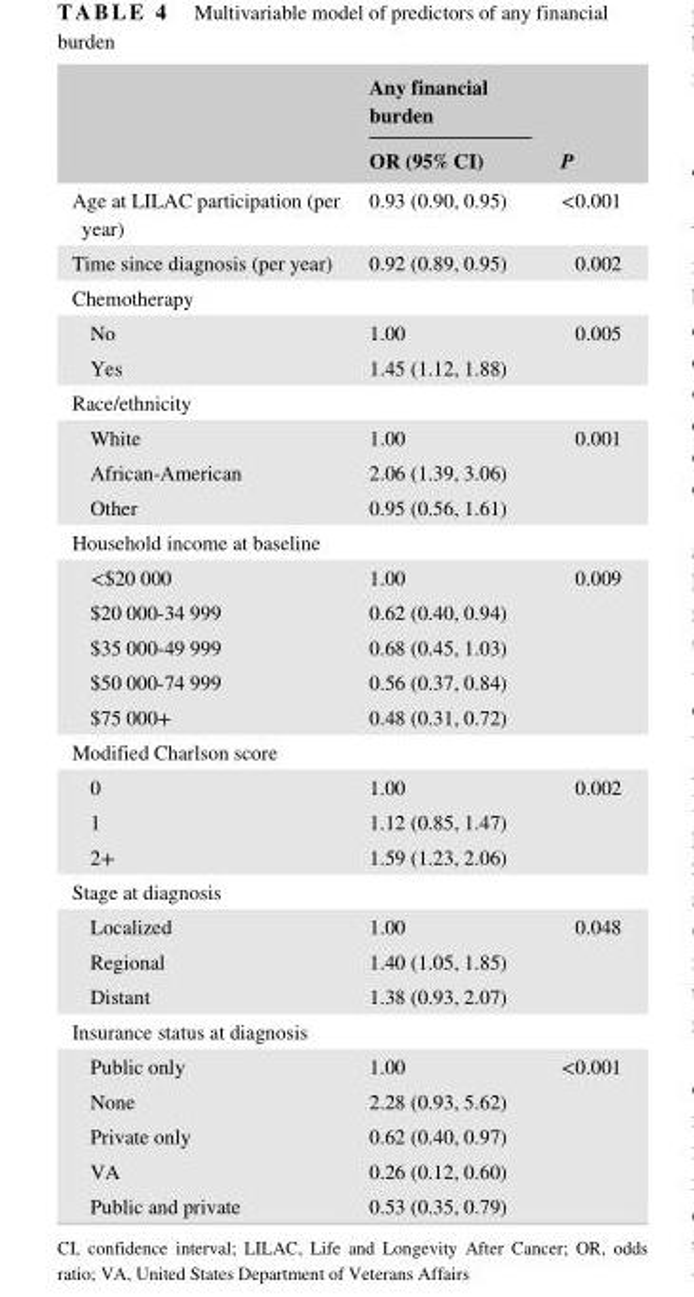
<table><thead><tr><td rowspan="2"></td><td rowspan="2">Any financial burden OR (95% CI)</td><td rowspan="2">P</td></tr><tr></tr></thead><tbody><tr><td>Age at LILAC participation (per year)</td><td>0.93 (0.90, 0.95)</td><td>&lt;0.001</td></tr><tr><td>Time since diagnosis (per year)</td><td>0.92 (0.89, 0.95)</td><td>0.002</td></tr><tr><td colspan="3">Chemotherapy</td></tr><tr><td>No</td><td>1.00</td><td>0.005</td></tr><tr><td>Yes</td><td>1.45 (1.12, 1.88)</td><td></td></tr><tr><td colspan="3">Race/ethnicity</td></tr><tr><td>White</td><td>1.00</td><td>0.001</td></tr><tr><td>African- American</td><td>2.06 (1.39, 3.06)</td><td></td></tr><tr><td>Other</td><td>0.95 (0.56, 1.61)</td><td></td></tr><tr><td colspan="3">Household income at baseline</td></tr><tr><td>&lt;$20 000</td><td>1.00</td><td>0.009</td></tr><tr><td>$20 000- 34 999</td><td>0.62 (0.40, 0.94)</td><td></td></tr><tr><td>$35 000- 49 999</td><td>0.68 (0.45, 1.03)</td><td></td></tr><tr><td>$50 000- 74 999</td><td>0.56 (0.37, 0.84)</td><td></td></tr><tr><td>$75 000+</td><td>0.48 (0.31, 0.72)</td><td></td></tr><tr><td colspan="3">Modified Charlson score</td></tr><tr><td>0</td><td>1.00</td><td>0.002</td></tr><tr><td>1</td><td>1.12 (0.85, 1.47)</td><td></td></tr><tr><td>2+</td><td>1.59 (1.23, 2.06)</td><td></td></tr><tr><td colspan="3">Stage at diagnosis</td></tr><tr><td>Localized</td><td>1.00</td><td>0.048</td></tr><tr><td>Regional</td><td>1.40 (1.05, 1.85)</td><td></td></tr><tr><td>Distant</td><td>1.38 (0.93, 2.07)</td><td></td></tr><tr><td colspan="3">Insurance status at diagnosis</td></tr><tr><td>Public only</td><td>1.00</td><td>&lt;0.001</td></tr><tr><td>None</td><td>2.28 (0.93, 5.62)</td><td></td></tr><tr><td>Private only</td><td>0.62 (0.40, 0.97)</td><td></td></tr><tr><td>VA</td><td>0.26 (0.12, 0.60)</td><td></td></tr><tr><td>Public and private</td><td>0.53 (0.35, 0.79)</td><td></td></tr></tbody></table>